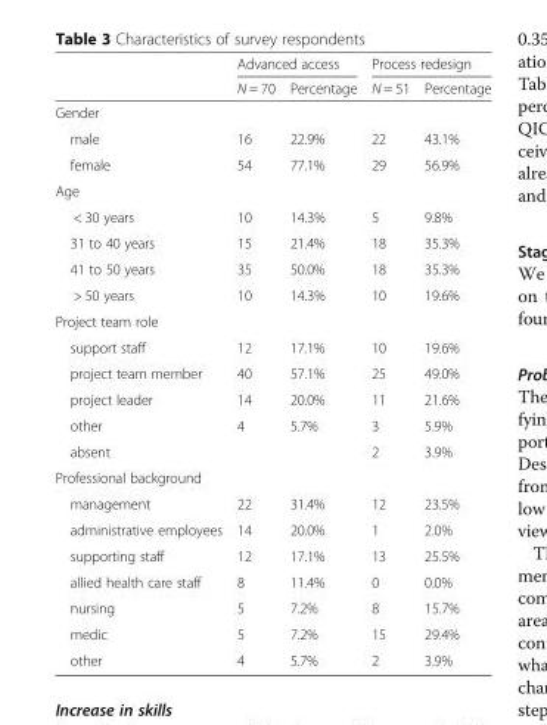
<table><thead><tr><td rowspan="2"></td><td colspan="2">Advanced access</td><td colspan="2">Process redesign</td></tr><tr><td>N = 70</td><td>Percentage</td><td>N = 51</td><td>Percentage</td></tr></thead><tbody><tr><td colspan="5">Gender</td></tr><tr><td>male</td><td>16</td><td>22.9%</td><td>22</td><td>43.1%</td></tr><tr><td>female</td><td>54</td><td>77.1%</td><td>29</td><td>56.9%</td></tr><tr><td colspan="5">Age</td></tr><tr><td>&lt; 30 years</td><td>10</td><td>14.3%</td><td>5</td><td>9.8%</td></tr><tr><td>31 to 40 years</td><td>15</td><td>21.4%</td><td>18</td><td>35.3%</td></tr><tr><td>41 to 50 years</td><td>35</td><td>50.0%</td><td>18</td><td>35.3%</td></tr><tr><td>&gt; 50 years</td><td>10</td><td>14.3%</td><td>10</td><td>19.6%</td></tr><tr><td colspan="5">Project team role</td></tr><tr><td>support staff</td><td>12</td><td>17.1%</td><td>10</td><td>19.6%</td></tr><tr><td>project team member</td><td>40</td><td>57.1%</td><td>25</td><td>49.0%</td></tr><tr><td>project leader</td><td>14</td><td>20.0%</td><td>11</td><td>21.6%</td></tr><tr><td>other</td><td>4</td><td>5.7%</td><td>3</td><td>5.9%</td></tr><tr><td>absent</td><td></td><td></td><td>2</td><td>3.9%</td></tr><tr><td colspan="5">Professional background</td></tr><tr><td>management</td><td>22</td><td>31.4%</td><td>12</td><td>23.5%</td></tr><tr><td>administrative employees</td><td>14</td><td>20.0%</td><td>1</td><td>2.0%</td></tr><tr><td>supporting staff</td><td>12</td><td>17.1%</td><td>13</td><td>25.5%</td></tr><tr><td>allied health care staff</td><td>8</td><td>11.4%</td><td>0</td><td>0.0%</td></tr><tr><td>nursing</td><td>5</td><td>7.2%</td><td>8</td><td>15.7%</td></tr><tr><td>medic</td><td>5</td><td>7.2%</td><td>15</td><td>29.4%</td></tr><tr><td>other</td><td>4</td><td>5.7%</td><td>2</td><td>3.9%</td></tr></tbody></table>